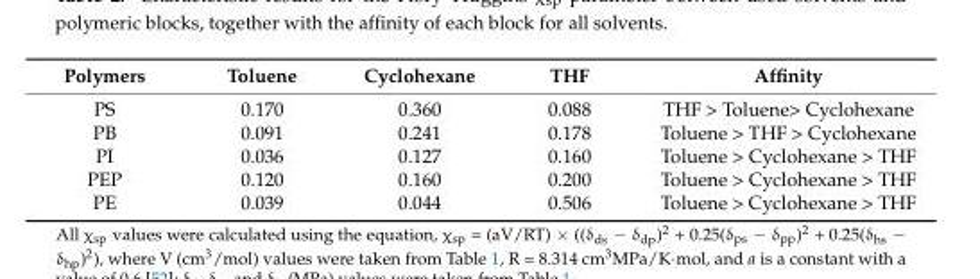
<table><thead><tr><td>Polymers</td><td>Toluene</td><td>Cyclohexane</td><td>THF</td><td>Affinity</td></tr></thead><tbody><tr><td>PS</td><td>0.170</td><td>0.360</td><td>0.088</td><td>THF &gt; Toluene&gt; Cyclohexane</td></tr><tr><td>PB</td><td>0.091</td><td>0.241</td><td>0.178</td><td>Toluene &gt; THF &gt; Cyclohexane</td></tr><tr><td>PI</td><td>0.036</td><td>0.127</td><td>0.160</td><td>Toluene &gt; Cyclohexane &gt; THF</td></tr><tr><td>PEP</td><td>0.120</td><td>0.160</td><td>0.200</td><td>Toluene &gt; Cyclohexane &gt; THF</td></tr><tr><td>PE</td><td>0.039</td><td>0.044</td><td>0.506</td><td>Toluene &gt; Cyclohexane &gt; THF</td></tr></tbody></table>